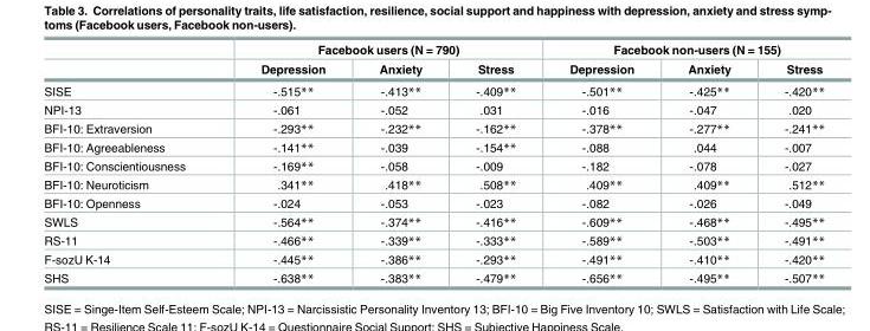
<table><thead><tr><td rowspan="2"></td><td colspan="3">Facebook users (N = 790)</td><td colspan="3">Facebook non-users (N = 155)</td></tr><tr><td>Depression</td><td>Anxiety</td><td>Stress</td><td>Depression</td><td>Anxiety</td><td>Stress</td></tr></thead><tbody><tr><td>SISE</td><td>-.515**</td><td>-.413**</td><td>-.409**</td><td>-.501**</td><td>-.425**</td><td>-.420**</td></tr><tr><td>NPI-13</td><td>-.061</td><td>-.052</td><td>.031</td><td>-.016</td><td>-.047</td><td>.020</td></tr><tr><td>BFI-10: Extraversion</td><td>-.293**</td><td>-.232**</td><td>-.162**</td><td>-.378**</td><td>-.277**</td><td>-.241**</td></tr><tr><td>BFI-10: Agreeableness</td><td>-.141**</td><td>-.039</td><td>-.154**</td><td>-.088</td><td>.044</td><td>-.007</td></tr><tr><td>BFI-10: Conscientiousness</td><td>-.169**</td><td>-.058</td><td>-.009</td><td>-.182</td><td>-.078</td><td>-.027</td></tr><tr><td>BFI-10: Neuroticism</td><td>.341**</td><td>.418**</td><td>.508**</td><td>.409**</td><td>.409**</td><td>.512**</td></tr><tr><td>BFI-10: Openness</td><td>-.024</td><td>-.053</td><td>-.023</td><td>-.082</td><td>-.026</td><td>-.049</td></tr><tr><td>SWLS</td><td>-.564**</td><td>-.374**</td><td>-.416**</td><td>-.609**</td><td>-.468**</td><td>-.495**</td></tr><tr><td>RS-11</td><td>-.466**</td><td>-.339**</td><td>-.333**</td><td>-.589**</td><td>-.503**</td><td>-.491**</td></tr><tr><td>F-sozU K-14</td><td>-.445**</td><td>-.386**</td><td>-.293**</td><td>-.491**</td><td>-.410**</td><td>-.420**</td></tr><tr><td>SHS</td><td>-.638**</td><td>-.383**</td><td>-.479**</td><td>-.656**</td><td>-.495**</td><td>-.507**</td></tr></tbody></table>